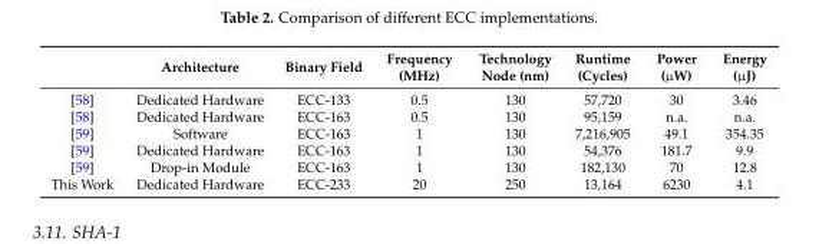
<table><thead><tr><td></td><td>Architecture</td><td>Binary Field</td><td>Frequency (MHz)</td><td>Technology Node (nm)</td><td>Runtime (Cycles)</td><td>Power (µW)</td><td>Energy (µJ)</td></tr></thead><tbody><tr><td>[58]</td><td>Dedicated Hardware</td><td>ECC-133</td><td>0.5</td><td>130</td><td>57,720</td><td>30</td><td>3.46</td></tr><tr><td>[58]</td><td>Dedicated Hardware</td><td>ECC-163</td><td>0.5</td><td>130</td><td>95,159</td><td>n.a.</td><td>n.a.</td></tr><tr><td>[59]</td><td>Software</td><td>ECC-163</td><td>1</td><td>130</td><td>7,216,905</td><td>49.1</td><td>354.35</td></tr><tr><td>[59]</td><td>Dedicated Hardware</td><td>ECC-163</td><td>1</td><td>130</td><td>54,376</td><td>181.7</td><td>9.9</td></tr><tr><td>[59]</td><td>Drop-in Module</td><td>ECC-163</td><td>1</td><td>130</td><td>182,130</td><td>70</td><td>12.8</td></tr><tr><td>This Work</td><td>Dedicated Hardware</td><td>ECC-233</td><td>20</td><td>250</td><td>13,164</td><td>6230</td><td>4.1</td></tr></tbody></table>